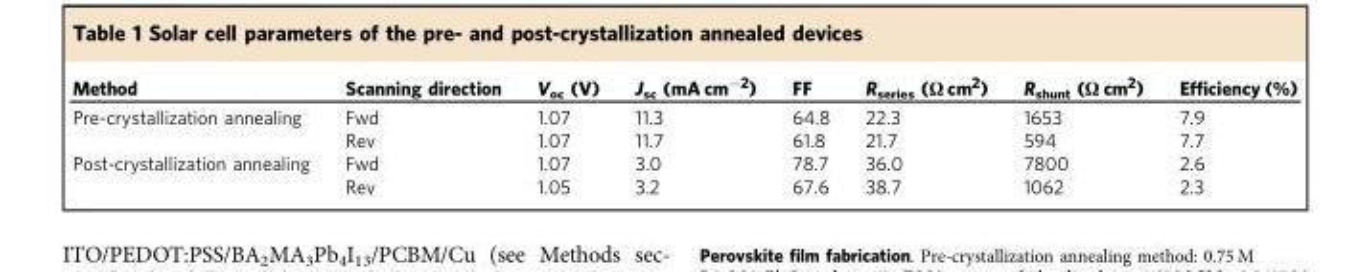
<table><thead><tr><td>Method</td><td>Scanning direction</td><td>V<sub>oc</sub> (V)</td><td>J<sub>sc</sub> (mA cm<sup>−2</sup>)</td><td>FF</td><td>R<sub>series</sub> (Ω cm<sup>2</sup>)</td><td>R<sub>shunt</sub> (Ω cm<sup>2</sup>)</td><td>Efficiency (%)</td></tr></thead><tbody><tr><td rowspan="2">Pre-crystallization annealing</td><td>Fwd</td><td>1.07</td><td>11.3</td><td>64.8</td><td>22.3</td><td>1653</td><td>7.9</td></tr><tr><td>Rev</td><td>1.07</td><td>11.7</td><td>61.8</td><td>21.7</td><td>594</td><td>7.7</td></tr><tr><td rowspan="2">Post-crystallization annealing</td><td>Fwd</td><td>1.07</td><td>3.0</td><td>78.7</td><td>36.0</td><td>7800</td><td>2.6</td></tr><tr><td>Rev</td><td>1.05</td><td>3.2</td><td>67.6</td><td>38.7</td><td>1062</td><td>2.3</td></tr></tbody></table>